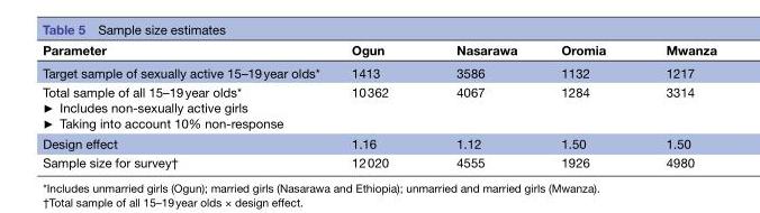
<table><thead><tr><td>Parameter</td><td>Ogun</td><td>Nasarawa</td><td>Oromia</td><td>Mwanza</td></tr></thead><tbody><tr><td>Target sample of sexually active 15–19 year olds*</td><td>1413</td><td>3586</td><td>1132</td><td>1217</td></tr><tr><td>Total sample of all 15–19 year olds* ► Includes non-sexually active girls ► Taking into account 10% non-response</td><td>10 362</td><td>4067</td><td>1284</td><td>3314</td></tr><tr><td>Design effect</td><td>1.16</td><td>1.12</td><td>1.50</td><td>1.50</td></tr><tr><td>Sample size for survey†</td><td>12 020</td><td>4555</td><td>1926</td><td>4980</td></tr></tbody></table>